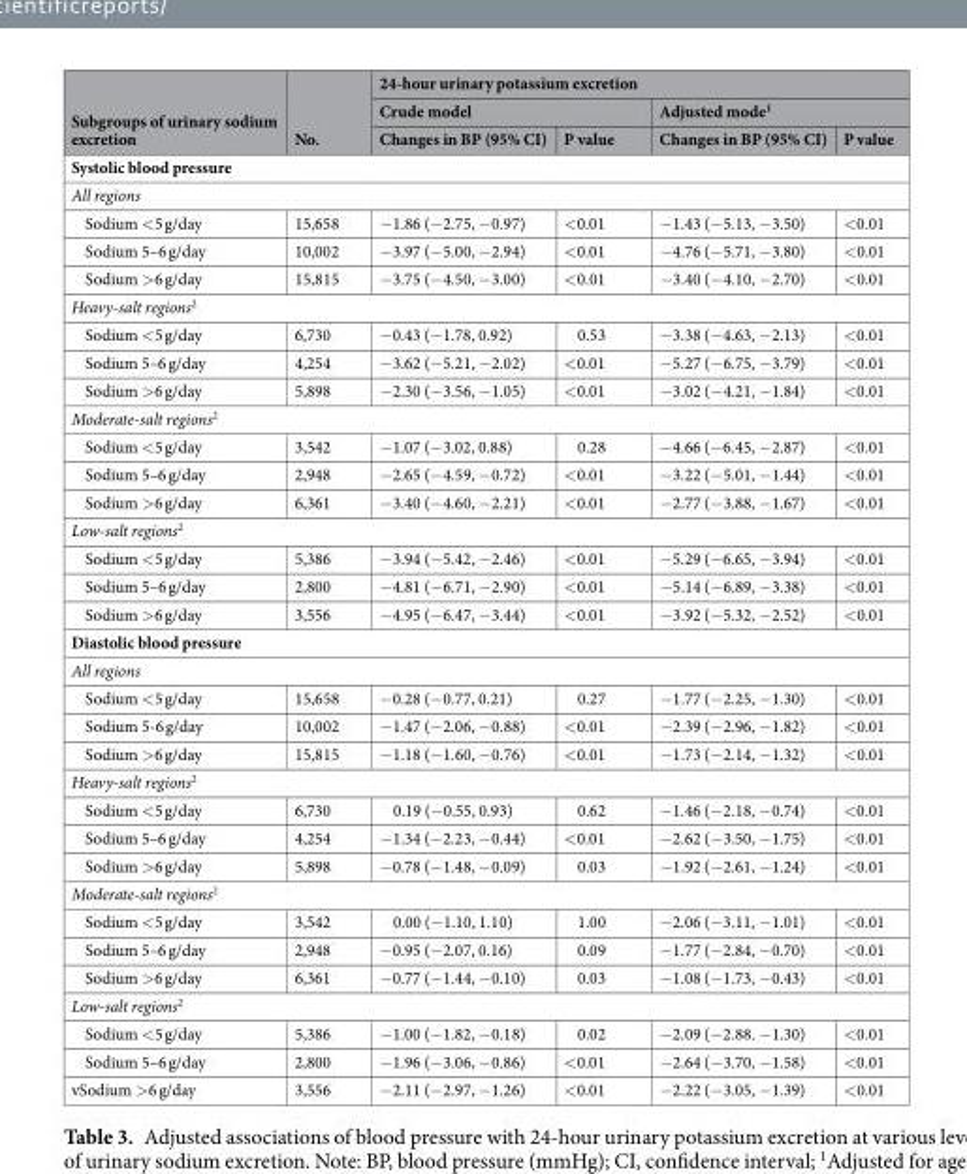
<table><thead><tr><td rowspan="3">Subgroups of urinary sodium excretion</td><td rowspan="3">No.</td><td colspan="4">24-hour urinary potassium excretion</td></tr><tr><td colspan="2">Crude model</td><td colspan="2">Adjusted mode<sup>1</sup></td></tr><tr><td>Changes in BP (95% CI)</td><td>P value</td><td>Changes in BP (95% CI)</td><td>P value</td></tr></thead><tbody><tr><td colspan="6">Systolic blood pressure</td></tr><tr><td colspan="6">All regions</td></tr><tr><td>Sodium &lt;5 g/day</td><td>15,658</td><td>−1.86 (−2.75, −0.97)</td><td>&lt;0.01</td><td>−1.43 (−5.13, −3.50)</td><td>&lt;0.01</td></tr><tr><td>Sodium 5–6 g/day</td><td>10,002</td><td>−3.97 (−5.00, −2.94)</td><td>&lt;0.01</td><td>−4.76 (−5.71, −3.80)</td><td>&lt;0.01</td></tr><tr><td>Sodium &gt;6 g/day</td><td>15,815</td><td>−3.75 (−4.50, −3.00)</td><td>&lt;0.01</td><td>−3.40 (−4.10, −2.70)</td><td>&lt;0.01</td></tr><tr><td colspan="6">Heavy-salt regions<sup>2</sup></td></tr><tr><td>Sodium &lt;5 g/day</td><td>6,730</td><td>−0.43 (−1.78, 0.92)</td><td>0.53</td><td>−3.38 (−4.63, −2.13)</td><td>&lt;0.01</td></tr><tr><td>Sodium 5–6 g/day</td><td>4,254</td><td>−3.62 (−5.21, −2.02)</td><td>&lt;0.01</td><td>−5.27 (−6.75, −3.79)</td><td>&lt;0.01</td></tr><tr><td>Sodium &gt;6 g/day</td><td>5,898</td><td>−2.30 (−3.56, −1.05)</td><td>&lt;0.01</td><td>−3.02 (−4.21, −1.84)</td><td>&lt;0.01</td></tr><tr><td colspan="6">Moderate-salt regions<sup>2</sup></td></tr><tr><td>Sodium &lt;5 g/day</td><td>3,542</td><td>−1.07 (−3.02, 0.88)</td><td>0.28</td><td>−4.66 (−6.45, −2.87)</td><td>&lt;0.01</td></tr><tr><td>Sodium 5–6 g/day</td><td>2,948</td><td>−2.65 (−4.59, −0.72)</td><td>&lt;0.01</td><td>−3.22 (−5.01, −1.44)</td><td>&lt;0.01</td></tr><tr><td>Sodium &gt;6 g/day</td><td>6,361</td><td>−3.40 (−4.60, −2.21)</td><td>&lt;0.01</td><td>−2.77 (−3.88, −1.67)</td><td>&lt;0.01</td></tr><tr><td colspan="6">Low-salt regions<sup>2</sup></td></tr><tr><td>Sodium &lt;5 g/day</td><td>5,386</td><td>−3.94 (−5.42, −2.46)</td><td>&lt;0.01</td><td>−5.29 (−6.65, −3.94)</td><td>&lt;0.01</td></tr><tr><td>Sodium 5–6 g/day</td><td>2,800</td><td>−4.81 (−6.71, −2.90)</td><td>&lt;0.01</td><td>−5.14 (−6.89, −3.38)</td><td>&lt;0.01</td></tr><tr><td>Sodium &gt;6 g/day</td><td>3,556</td><td>−4.95 (−6.47, −3.44)</td><td>&lt;0.01</td><td>−3.92 (−5.32, −2.52)</td><td>&lt;0.01</td></tr><tr><td colspan="6">Diastolic blood pressure</td></tr><tr><td colspan="6">All regions</td></tr><tr><td>Sodium &lt;5 g/day</td><td>15,658</td><td>−0.28 (−0.77, 0.21)</td><td>0.27</td><td>−1.77 (−2.25, −1.30)</td><td>&lt;0.01</td></tr><tr><td>Sodium 5-6 g/day</td><td>10,002</td><td>−1.47 (−2.06, −0.88)</td><td>&lt;0.01</td><td>−2.39 (−2.96, −1.82)</td><td>&lt;0.01</td></tr><tr><td>Sodium &gt;6 g/day</td><td>15,815</td><td>−1.18 (−1.60, −0.76)</td><td>&lt;0.01</td><td>−1.73 (−2.14, −1.32)</td><td>&lt;0.01</td></tr><tr><td colspan="6">Heavy-salt regions<sup>2</sup></td></tr><tr><td>Sodium &lt;5 g/day</td><td>6,730</td><td>0.19 (−0.55, 0.93)</td><td>0.62</td><td>−1.46 (−2.18, −0.74)</td><td>&lt;0.01</td></tr><tr><td>Sodium 5–6 g/day</td><td>4,254</td><td>−1.34 (−2.23, −0.44)</td><td>&lt;0.01</td><td>−2.62 (−3.50, −1.75)</td><td>&lt;0.01</td></tr><tr><td>Sodium &gt;6 g/day</td><td>5,898</td><td>−0.78 (−1.48, −0.09)</td><td>0.03</td><td>−1.92 (−2.61, −1.24)</td><td>&lt;0.01</td></tr><tr><td colspan="6">Moderate-salt regions<sup>2</sup></td></tr><tr><td>Sodium &lt;5 g/day</td><td>3,542</td><td>0.00 (−1.10, 1.10)</td><td>1.00</td><td>−2.06 (−3.11, −1.01)</td><td>&lt;0.01</td></tr><tr><td>Sodium 5–6 g/day</td><td>2,948</td><td>−0.95 (−2.07, 0.16)</td><td>0.09</td><td>−1.77 (−2.84, −0.70)</td><td>&lt;0.01</td></tr><tr><td>Sodium &gt;6 g/day</td><td>6,361</td><td>−0.77 (−1.44, −0.10)</td><td>0.03</td><td>−1.08 (−1.73, −0.43)</td><td>&lt;0.01</td></tr><tr><td colspan="6">Low-salt regions<sup>2</sup></td></tr><tr><td>Sodium &lt;5 g/day</td><td>5,386</td><td>−1.00 (−1.82, −0.18)</td><td>0.02</td><td>−2.09 (−2.88. −1.30)</td><td>&lt;0.01</td></tr><tr><td>Sodium 5–6 g/day</td><td>2,800</td><td>−1.96 (−3.06, −0.86)</td><td>&lt;0.01</td><td>−2.64 (−3.70, −1.58)</td><td>&lt;0.01</td></tr><tr><td>vSodium &gt;6 g/day</td><td>3,556</td><td>−2.11 (−2.97, −1.26)</td><td>&lt;0.01</td><td>−2.22 (−3.05, −1.39)</td><td>&lt;0.01</td></tr></tbody></table>